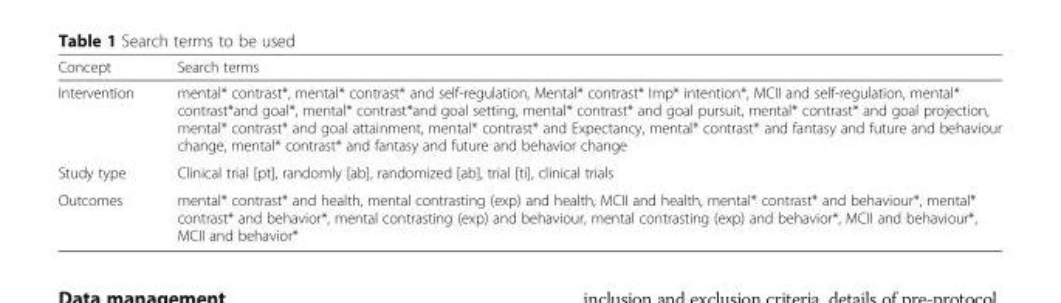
<table><thead><tr><td>Concept</td><td>Search terms</td></tr></thead><tbody><tr><td>Intervention</td><td>mental* contrast*, mental* contrast* and self-regulation, Mental* contrast* Imp* intention*, MCII and self-regulation, mental* contrast*and goal*, mental* contrast*and goal setting, mental* contrast* and goal pursuit, mental* contrast* and goal projection, mental* contrast* and goal attainment, mental* contrast* and Expectancy, mental* contrast* and fantasy and future and behaviour change, mental* contrast* and fantasy and future and behavior change</td></tr><tr><td>Study type</td><td>Clinical trial [pt], randomly [ab], randomized [ab], trial [ti], clinical trials</td></tr><tr><td>Outcomes</td><td>mental* contrast* and health, mental contrasting (exp) and health, MCII and health, mental* contrast* and behaviour*, mental* contrast* and behavior*, mental contrasting (exp) and behaviour, mental contrasting (exp) and behavior*, MCII and behaviour*, MCII and behavior*</td></tr></tbody></table>